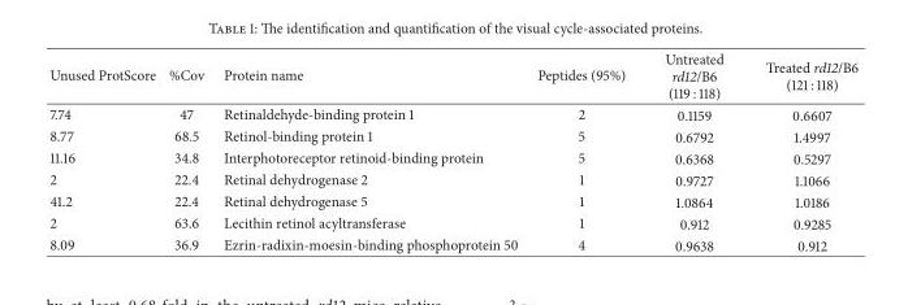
<table><thead><tr><td>Unused ProtScore</td><td>%Cov</td><td>Protein name</td><td>Peptides (95%)</td><td>Untreated rd12/B6 (119 : 118)</td><td>Treated rd12/B6 (121 : 118)</td></tr></thead><tbody><tr><td>7.74</td><td>47</td><td>Retinaldehyde-binding protein 1</td><td>2</td><td>0.1159</td><td>0.6607</td></tr><tr><td>8.77</td><td>68.5</td><td>Retinol-binding protein 1</td><td>5</td><td>0.6792</td><td>1.4997</td></tr><tr><td>11.16</td><td>34.8</td><td>Interphotoreceptor retinoid-binding protein</td><td>5</td><td>0.6368</td><td>0.5297</td></tr><tr><td>2</td><td>22.4</td><td>Retinal dehydrogenase 2</td><td>1</td><td>0.9727</td><td>1.1066</td></tr><tr><td>41.2</td><td>22.4</td><td>Retinal dehydrogenase 5</td><td>1</td><td>1.0864</td><td>1.0186</td></tr><tr><td>2</td><td>63.6</td><td>Lecithin retinol acyltransferase</td><td>1</td><td>0.912</td><td>0.9285</td></tr><tr><td>8.09</td><td>36.9</td><td>Ezrin-radixin-moesin-binding phosphoprotein 50</td><td>4</td><td>0.9638</td><td>0.912</td></tr></tbody></table>